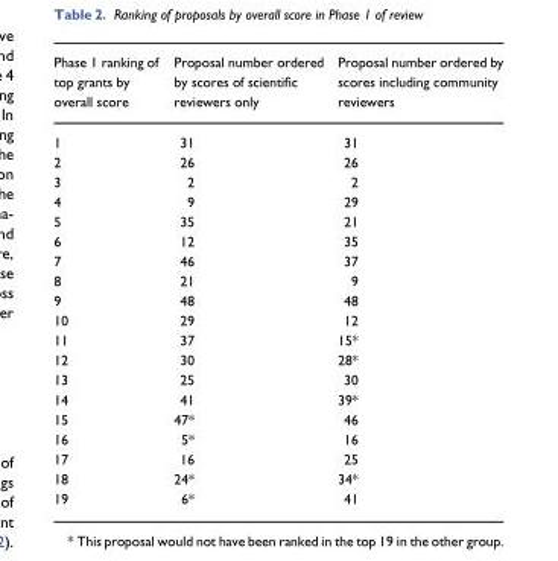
<table><thead><tr><td>Phase 1 ranking of top grants by overall score</td><td>Proposal number ordered by scores of scientific reviewers only</td><td>Proposal number ordered by scores including community reviewers</td></tr></thead><tbody><tr><td>1</td><td>31</td><td>31</td></tr><tr><td>2</td><td>26</td><td>26</td></tr><tr><td>3</td><td>2</td><td>2</td></tr><tr><td>4</td><td>9</td><td>29</td></tr><tr><td>5</td><td>35</td><td>21</td></tr><tr><td>6</td><td>12</td><td>35</td></tr><tr><td>7</td><td>46</td><td>37</td></tr><tr><td>8</td><td>21</td><td>9</td></tr><tr><td>9</td><td>48</td><td>48</td></tr><tr><td>10</td><td>29</td><td>12</td></tr><tr><td>11</td><td>37</td><td>15*</td></tr><tr><td>12</td><td>30</td><td>28*</td></tr><tr><td>13</td><td>25</td><td>30</td></tr><tr><td>14</td><td>41</td><td>39*</td></tr><tr><td>15</td><td>47*</td><td>46</td></tr><tr><td>16</td><td>5*</td><td>16</td></tr><tr><td>17</td><td>16</td><td>25</td></tr><tr><td>18</td><td>24*</td><td>34*</td></tr><tr><td>19</td><td>6*</td><td>41</td></tr></tbody></table>